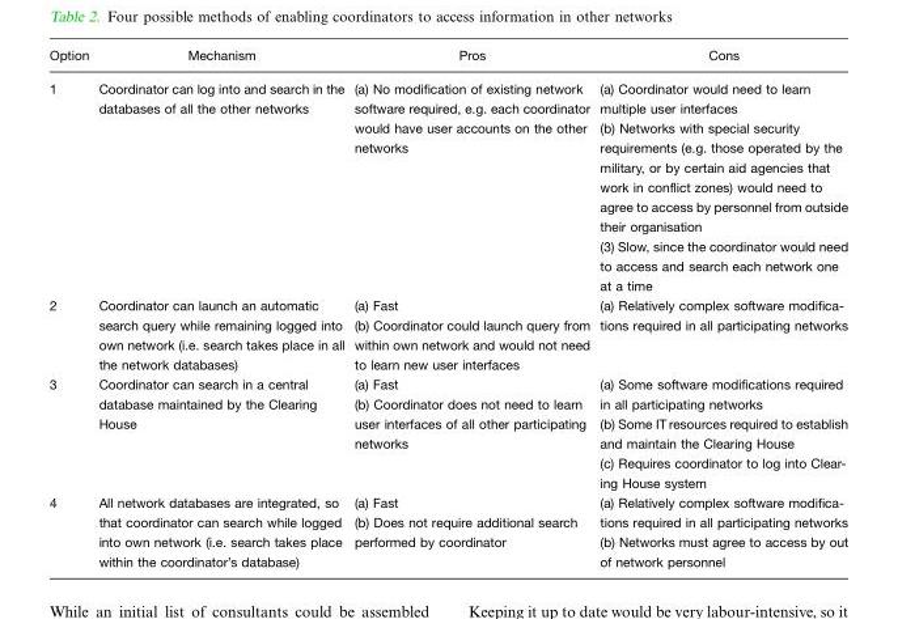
<table><thead><tr><td>Option</td><td>Mechanism</td><td>Pros</td><td>Cons</td></tr></thead><tbody><tr><td rowspan="2">1</td><td>Coordinator can log into and search in the databases of all the other networks</td><td>(a) No modification of existing network software required, e.g. each coordinator would have user accounts on the other networks</td><td>(a) Coordinator would need to learn multiple user interfaces (b) Networks with special security requirements (e.g. those operated by the military, or by certain aid agencies that work in conflict zones) would need to agree to access by personnel from outside their organisation</td></tr><tr><td></td><td></td><td>(3) Slow, since the coordinator would need to access and search each network one at a time</td></tr><tr><td>2</td><td>Coordinator can launch an automatic search query while remaining logged into own network (i.e. search takes place in all the network databases)</td><td>(a) Fast (b) Coordinator could launch query from within own network and would not need to learn new user interfaces</td><td>(a) Relatively complex software modifica- tions required in all participating networks</td></tr><tr><td>3</td><td>Coordinator can search in a central database maintained by the Clearing House</td><td>(a) Fast (b) Coordinator does not need to learn user interfaces of all other participating networks</td><td>(a) Some software modifications required in all participating networks (b) Some IT resources required to establish and maintain the Clearing House (c) Requires coordinator to log into Clear- ing House system</td></tr><tr><td>4</td><td>All network databases are integrated, so that coordinator can search while logged into own network (i.e. search takes place within the coordinator’s database)</td><td>(a) Fast (b) Does not require additional search performed by coordinator</td><td>(a) Relatively complex software modifica- tions required in all participating networks (b) Networks must agree to access by out of network personnel</td></tr></tbody></table>